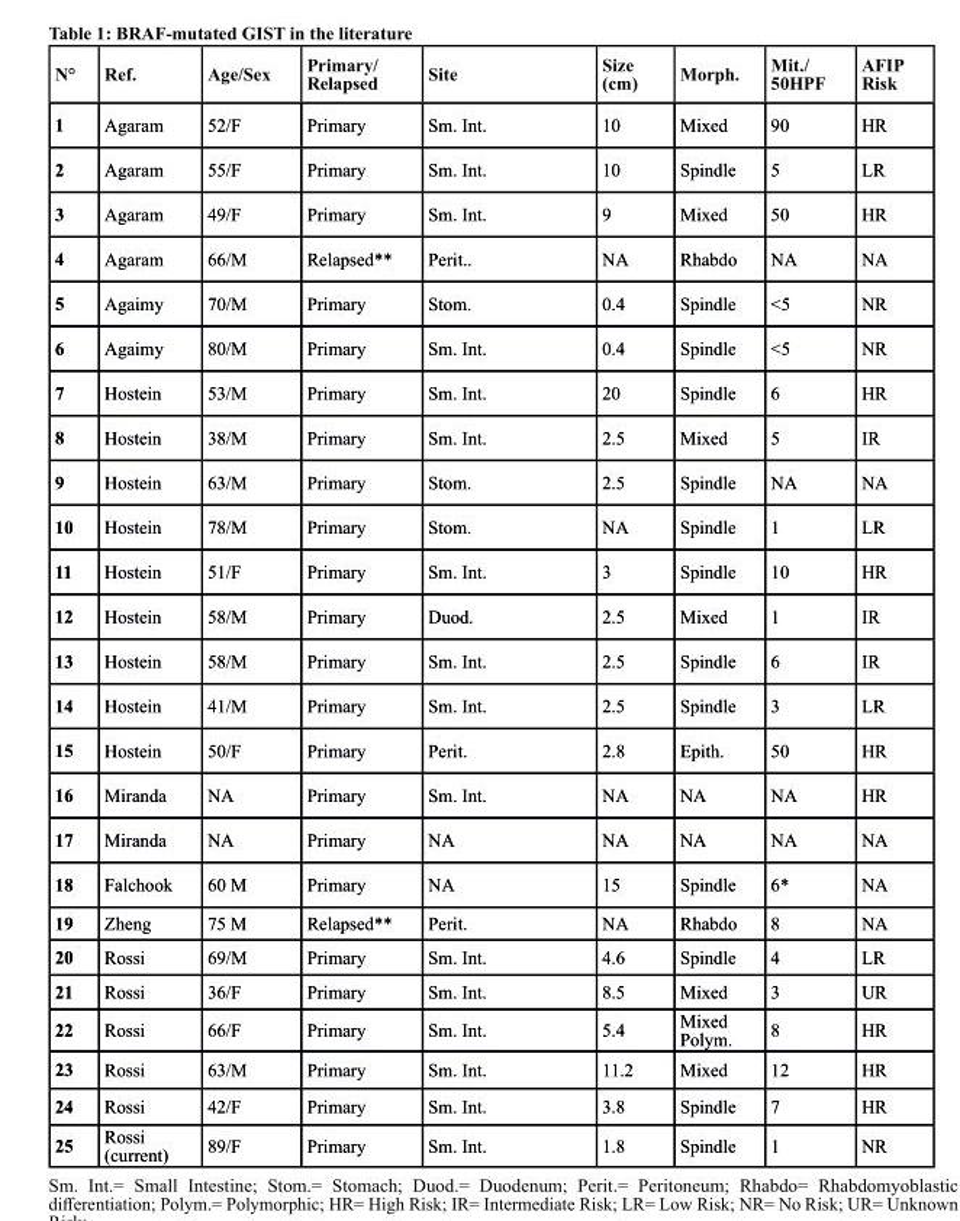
<table><thead><tr><td>n°</td><td>ref.</td><td>Age/sex</td><td>Primary/ relapsed</td><td>site</td><td>size (cm)</td><td>Morph.</td><td>Mit./ 50HPF</td><td>AFIP risk</td></tr></thead><tbody><tr><td>1</td><td>Agaram</td><td>52/F</td><td>Primary</td><td>Sm. Int.</td><td>10</td><td>Mixed</td><td>90</td><td>HR</td></tr><tr><td>2</td><td>Agaram</td><td>55/F</td><td>Primary</td><td>Sm. Int.</td><td>10</td><td>Spindle</td><td>5</td><td>LR</td></tr><tr><td>3</td><td>Agaram</td><td>49/F</td><td>Primary</td><td>Sm. Int.</td><td>9</td><td>Mixed</td><td>50</td><td>HR</td></tr><tr><td>4</td><td>Agaram</td><td>66/M</td><td>Relapsed**</td><td>Perit..</td><td>NA</td><td>Rhabdo</td><td>NA</td><td>NA</td></tr><tr><td>5</td><td>Agaimy</td><td>70/M</td><td>Primary</td><td>Stom.</td><td>0.4</td><td>Spindle</td><td>&lt;5</td><td>NR</td></tr><tr><td>6</td><td>Agaimy</td><td>80/M</td><td>Primary</td><td>Sm. Int.</td><td>0.4</td><td>Spindle</td><td>&lt;5</td><td>NR</td></tr><tr><td>7</td><td>Hostein</td><td>53/M</td><td>Primary</td><td>Sm. Int.</td><td>20</td><td>Spindle</td><td>6</td><td>HR</td></tr><tr><td>8</td><td>Hostein</td><td>38/M</td><td>Primary</td><td>Sm. Int.</td><td>2.5</td><td>Mixed</td><td>5</td><td>IR</td></tr><tr><td>9</td><td>Hostein</td><td>63/M</td><td>Primary</td><td>Stom.</td><td>2.5</td><td>Spindle</td><td>NA</td><td>NA</td></tr><tr><td>10</td><td>Hostein</td><td>78/M</td><td>Primary</td><td>Stom.</td><td>NA</td><td>Spindle</td><td>1</td><td>LR</td></tr><tr><td>11</td><td>Hostein</td><td>51/F</td><td>Primary</td><td>Sm. Int.</td><td>3</td><td>Spindle</td><td>10</td><td>HR</td></tr><tr><td>12</td><td>Hostein</td><td>58/M</td><td>Primary</td><td>Duod.</td><td>2.5</td><td>Mixed</td><td>1</td><td>IR</td></tr><tr><td>13</td><td>Hostein</td><td>58/M</td><td>Primary</td><td>Sm. Int.</td><td>2.5</td><td>Spindle</td><td>6</td><td>IR</td></tr><tr><td>14</td><td>Hostein</td><td>41/M</td><td>Primary</td><td>Sm. Int.</td><td>2.5</td><td>Spindle</td><td>3</td><td>LR</td></tr><tr><td>15</td><td>Hostein</td><td>50/F</td><td>Primary</td><td>Perit.</td><td>2.8</td><td>Epith.</td><td>50</td><td>HR</td></tr><tr><td>16</td><td>Miranda</td><td>NA</td><td>Primary</td><td>Sm. Int.</td><td>NA</td><td>NA</td><td>NA</td><td>HR</td></tr><tr><td>17</td><td>Miranda</td><td>NA</td><td>Primary</td><td>NA</td><td>NA</td><td>NA</td><td>NA</td><td>NA</td></tr><tr><td>18</td><td>Falchook</td><td>60 M</td><td>Primary</td><td>NA</td><td>15</td><td>Spindle</td><td>6*</td><td>NA</td></tr><tr><td>19</td><td>Zheng</td><td>75 M</td><td>Relapsed**</td><td>Perit.</td><td>NA</td><td>Rhabdo</td><td>8</td><td>NA</td></tr><tr><td>20</td><td>Rossi</td><td>69/M</td><td>Primary</td><td>Sm. Int.</td><td>4.6</td><td>Spindle</td><td>4</td><td>LR</td></tr><tr><td>21</td><td>Rossi</td><td>36/F</td><td>Primary</td><td>Sm. Int.</td><td>8.5</td><td>Mixed</td><td>3</td><td>UR</td></tr><tr><td>22</td><td>Rossi</td><td>66/F</td><td>Primary</td><td>Sm. Int.</td><td>5.4</td><td>Mixed Polym.</td><td>8</td><td>HR</td></tr><tr><td>23</td><td>Rossi</td><td>63/M</td><td>Primary</td><td>Sm. Int.</td><td>11.2</td><td>Mixed</td><td>12</td><td>HR</td></tr><tr><td>24</td><td>Rossi</td><td>42/F</td><td>Primary</td><td>Sm. Int.</td><td>3.8</td><td>Spindle</td><td>7</td><td>HR</td></tr><tr><td>25</td><td>Rossi (current)</td><td>89/F</td><td>Primary</td><td>Sm. Int.</td><td>1.8</td><td>Spindle</td><td>1</td><td>NR</td></tr></tbody></table>